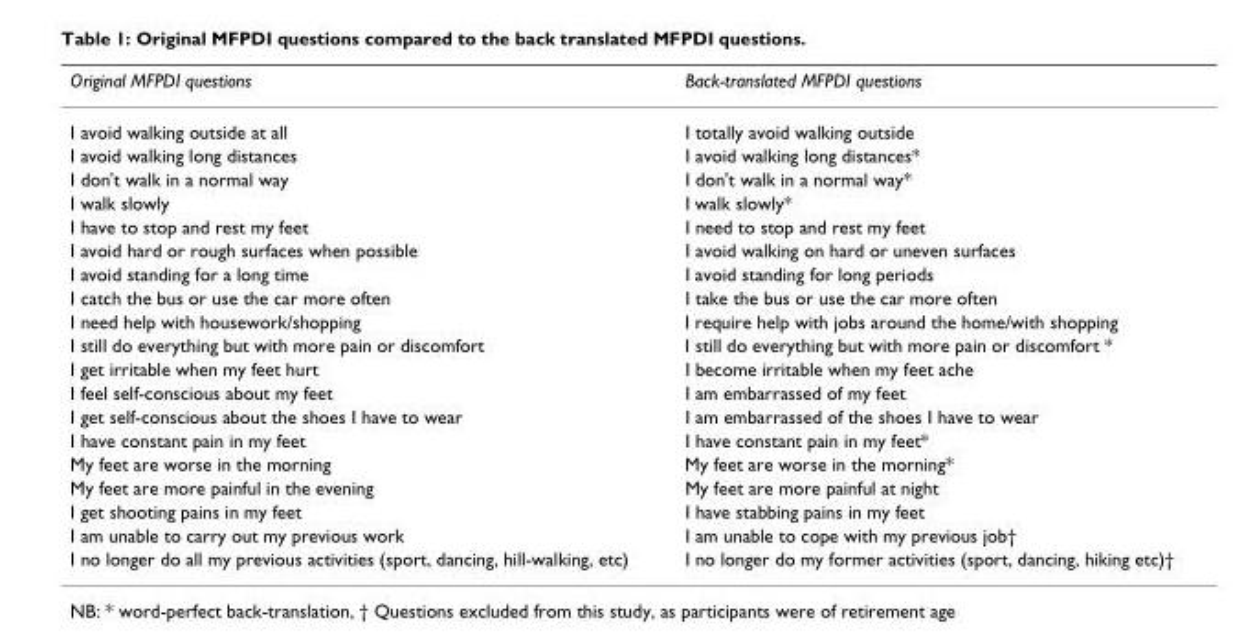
<table><thead><tr><td>Original MFPDI questions</td><td>Back-translated MFPDI questions</td></tr></thead><tbody><tr><td>I avoid walking outside at all</td><td>I totally avoid walking outside</td></tr><tr><td>I avoid walking long distances</td><td>I avoid walking long distances*</td></tr><tr><td>I don&#x27;t walk in a normal way</td><td>I don&#x27;t walk in a normal way*</td></tr><tr><td>I walk slowly</td><td>I walk slowly*</td></tr><tr><td>I have to stop and rest my feet</td><td>I need to stop and rest my feet</td></tr><tr><td>I avoid hard or rough surfaces when possible</td><td>I avoid walking on hard or uneven surfaces</td></tr><tr><td>I avoid standing for a long time</td><td>I avoid standing for long periods</td></tr><tr><td>I catch the bus or use the car more often</td><td>I take the bus or use the car more often</td></tr><tr><td>I need help with housework/shopping</td><td>I require help with jobs around the home/with shopping</td></tr><tr><td>I still do everything but with more pain or discomfort</td><td>I still do everything but with more pain or discomfort *</td></tr><tr><td>I get irritable when my feet hurt</td><td>I become irritable when my feet ache</td></tr><tr><td>I feel self-conscious about my feet</td><td>I am embarrassed of my feet</td></tr><tr><td>I get self-conscious about the shoes I have to wear</td><td>I am embarrassed of the shoes I have to wear</td></tr><tr><td>I have constant pain in my feet</td><td>I have constant pain in my feet*</td></tr><tr><td>My feet are worse in the morning</td><td>My feet are worse in the morning*</td></tr><tr><td>My feet are more painful in the evening</td><td>My feet are more painful at night</td></tr><tr><td>I get shooting pains in my feet</td><td>I have stabbing pains in my feet</td></tr><tr><td>I am unable to carry out my previous work</td><td>I am unable to cope with my previous job†</td></tr><tr><td>I no longer do all my previous activities (sport, dancing, hill-walking, etc)</td><td>I no longer do my former activities (sport, dancing, hiking etc)†</td></tr></tbody></table>